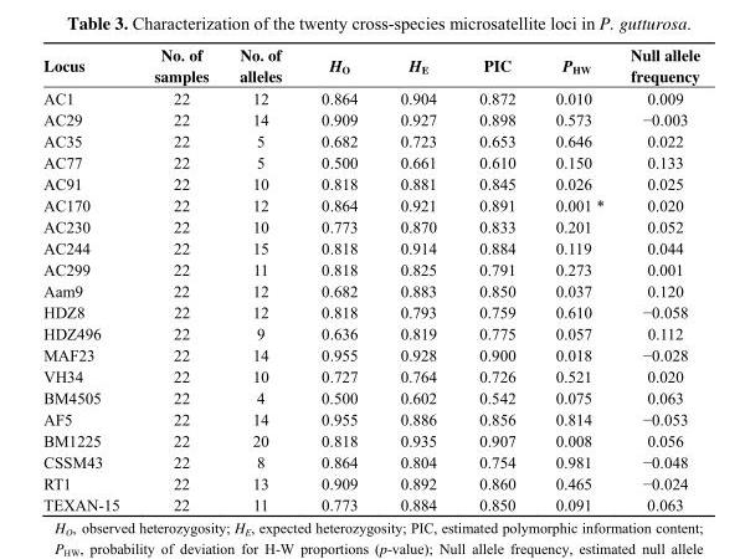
<table><thead><tr><td>Locus</td><td>No. of samples</td><td>No. of alleles</td><td>H<sub>O</sub></td><td>H<sub>E</sub></td><td>PIC</td><td>P<sub>HW</sub></td><td>Null allele frequency</td></tr></thead><tbody><tr><td>AC1</td><td>22</td><td>12</td><td>0.864</td><td>0.904</td><td>0.872</td><td>0.010</td><td>0.009</td></tr><tr><td>AC29</td><td>22</td><td>14</td><td>0.909</td><td>0.927</td><td>0.898</td><td>0.573</td><td>−0.003</td></tr><tr><td>AC35</td><td>22</td><td>5</td><td>0.682</td><td>0.723</td><td>0.653</td><td>0.646</td><td>0.022</td></tr><tr><td>AC77</td><td>22</td><td>5</td><td>0.500</td><td>0.661</td><td>0.610</td><td>0.150</td><td>0.133</td></tr><tr><td>AC91</td><td>22</td><td>10</td><td>0.818</td><td>0.881</td><td>0.845</td><td>0.026</td><td>0.025</td></tr><tr><td>AC170</td><td>22</td><td>12</td><td>0.864</td><td>0.921</td><td>0.891</td><td>0.001 *</td><td>0.020</td></tr><tr><td>AC230</td><td>22</td><td>10</td><td>0.773</td><td>0.870</td><td>0.833</td><td>0.201</td><td>0.052</td></tr><tr><td>AC244</td><td>22</td><td>15</td><td>0.818</td><td>0.914</td><td>0.884</td><td>0.119</td><td>0.044</td></tr><tr><td>AC299</td><td>22</td><td>11</td><td>0.818</td><td>0.825</td><td>0.791</td><td>0.273</td><td>0.001</td></tr><tr><td>Aam9</td><td>22</td><td>12</td><td>0.682</td><td>0.883</td><td>0.850</td><td>0.037</td><td>0.120</td></tr><tr><td>HDZ8</td><td>22</td><td>12</td><td>0.818</td><td>0.793</td><td>0.759</td><td>0.610</td><td>−0.058</td></tr><tr><td>HDZ496</td><td>22</td><td>9</td><td>0.636</td><td>0.819</td><td>0.775</td><td>0.057</td><td>0.112</td></tr><tr><td>MAF23</td><td>22</td><td>14</td><td>0.955</td><td>0.928</td><td>0.900</td><td>0.018</td><td>−0.028</td></tr><tr><td>VH34</td><td>22</td><td>10</td><td>0.727</td><td>0.764</td><td>0.726</td><td>0.521</td><td>0.020</td></tr><tr><td>BM4505</td><td>22</td><td>4</td><td>0.500</td><td>0.602</td><td>0.542</td><td>0.075</td><td>0.063</td></tr><tr><td>AF5</td><td>22</td><td>14</td><td>0.955</td><td>0.886</td><td>0.856</td><td>0.814</td><td>−0.053</td></tr><tr><td>BM1225</td><td>22</td><td>20</td><td>0.818</td><td>0.935</td><td>0.907</td><td>0.008</td><td>0.056</td></tr><tr><td>CSSM43</td><td>22</td><td>8</td><td>0.864</td><td>0.804</td><td>0.754</td><td>0.981</td><td>−0.048</td></tr><tr><td>RT1</td><td>22</td><td>13</td><td>0.909</td><td>0.892</td><td>0.860</td><td>0.465</td><td>−0.024</td></tr><tr><td>TEXAN-15</td><td>22</td><td>11</td><td>0.773</td><td>0.884</td><td>0.850</td><td>0.091</td><td>0.063</td></tr></tbody></table>